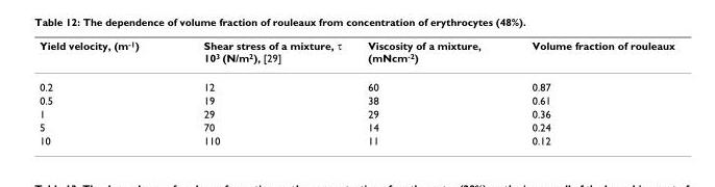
<table><thead><tr><td>Yield velocity, (m<sup>-1</sup>)</td><td>Shear stress of a mixture, τ 10<sup>3</sup> (N/m<sup>2</sup>), [29]</td><td>Viscosity of a mixture, (mNcm<sup>-2</sup>)</td><td>Volume fraction of rouleaux</td></tr></thead><tbody><tr><td>0.2</td><td>12</td><td>60</td><td>0.87</td></tr><tr><td>0.5</td><td>19</td><td>38</td><td>0.61</td></tr><tr><td>1</td><td>29</td><td>29</td><td>0.36</td></tr><tr><td>5</td><td>70</td><td>14</td><td>0.24</td></tr><tr><td>10</td><td>110</td><td>11</td><td>0.12</td></tr></tbody></table>